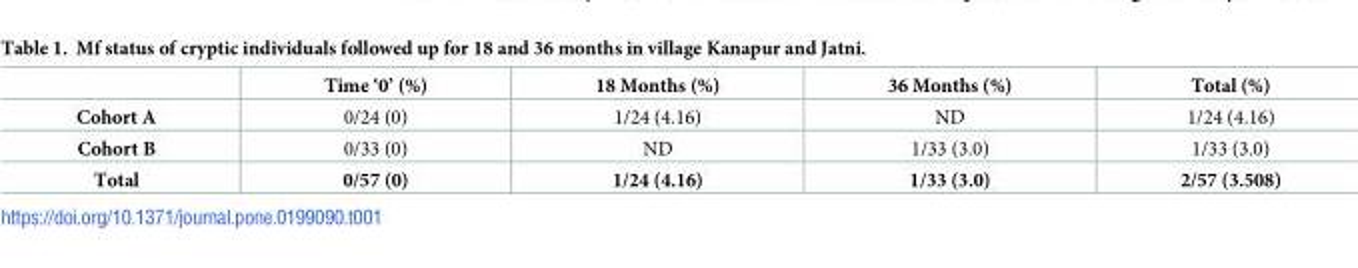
<table><thead><tr><td></td><td>Time ‘0’ (%)</td><td>18 Months (%)</td><td>36 Months (%)</td><td>Total (%)</td></tr></thead><tbody><tr><td>Cohort A</td><td>0/24 (0)</td><td>1/24 (4.16)</td><td>ND</td><td>1/24 (4.16)</td></tr><tr><td>Cohort B</td><td>0/33 (0)</td><td>ND</td><td>1/33 (3.0)</td><td>1/33 (3.0)</td></tr><tr><td>Total</td><td>0/57 (0)</td><td>1/24 (4.16)</td><td>1/33 (3.0)</td><td>2/57 (3.508)</td></tr></tbody></table>